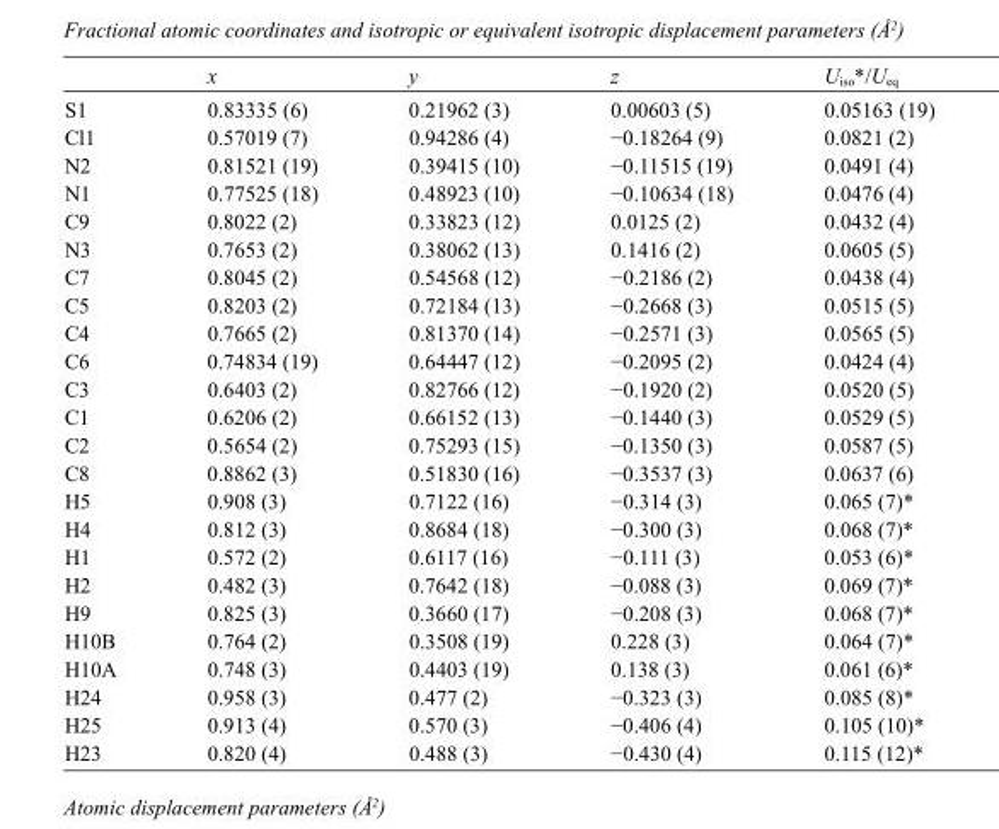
<table><thead><tr><td></td><td>x</td><td>y</td><td>z</td><td>U<sub>iso</sub>*/U<sub>eq</sub></td></tr></thead><tbody><tr><td>S1</td><td>0.83335 (6)</td><td>0.21962 (3)</td><td>0.00603 (5)</td><td>0.05163 (19)</td></tr><tr><td>Cl1</td><td>0.57019 (7)</td><td>0.94286 (4)</td><td>−0.18264 (9)</td><td>0.0821 (2)</td></tr><tr><td>N2</td><td>0.81521 (19)</td><td>0.39415 (10)</td><td>−0.11515 (19)</td><td>0.0491 (4)</td></tr><tr><td>N1</td><td>0.77525 (18)</td><td>0.48923 (10)</td><td>−0.10634 (18)</td><td>0.0476 (4)</td></tr><tr><td>C9</td><td>0.8022 (2)</td><td>0.33823 (12)</td><td>0.0125 (2)</td><td>0.0432 (4)</td></tr><tr><td>N3</td><td>0.7653 (2)</td><td>0.38062 (13)</td><td>0.1416 (2)</td><td>0.0605 (5)</td></tr><tr><td>C7</td><td>0.8045 (2)</td><td>0.54568 (12)</td><td>−0.2186 (2)</td><td>0.0438 (4)</td></tr><tr><td>C5</td><td>0.8203 (2)</td><td>0.72184 (13)</td><td>−0.2668 (3)</td><td>0.0515 (5)</td></tr><tr><td>C4</td><td>0.7665 (2)</td><td>0.81370 (14)</td><td>−0.2571 (3)</td><td>0.0565 (5)</td></tr><tr><td>C6</td><td>0.74834 (19)</td><td>0.64447 (12)</td><td>−0.2095 (2)</td><td>0.0424 (4)</td></tr><tr><td>C3</td><td>0.6403 (2)</td><td>0.82766 (12)</td><td>−0.1920 (2)</td><td>0.0520 (5)</td></tr><tr><td>C1</td><td>0.6206 (2)</td><td>0.66152 (13)</td><td>−0.1440 (3)</td><td>0.0529 (5)</td></tr><tr><td>C2</td><td>0.5654 (2)</td><td>0.75293 (15)</td><td>−0.1350 (3)</td><td>0.0587 (5)</td></tr><tr><td>C8</td><td>0.8862 (3)</td><td>0.51830 (16)</td><td>−0.3537 (3)</td><td>0.0637 (6)</td></tr><tr><td>H5</td><td>0.908 (3)</td><td>0.7122 (16)</td><td>−0.314 (3)</td><td>0.065 (7)*</td></tr><tr><td>H4</td><td>0.812 (3)</td><td>0.8684 (18)</td><td>−0.300 (3)</td><td>0.068 (7)*</td></tr><tr><td>H1</td><td>0.572 (2)</td><td>0.6117 (16)</td><td>−0.111 (3)</td><td>0.053 (6)*</td></tr><tr><td>H2</td><td>0.482 (3)</td><td>0.7642 (18)</td><td>−0.088 (3)</td><td>0.069 (7)*</td></tr><tr><td>H9</td><td>0.825 (3)</td><td>0.3660 (17)</td><td>−0.208 (3)</td><td>0.068 (7)*</td></tr><tr><td>H10B</td><td>0.764 (2)</td><td>0.3508 (19)</td><td>0.228 (3)</td><td>0.064 (7)*</td></tr><tr><td>H10A</td><td>0.748 (3)</td><td>0.4403 (19)</td><td>0.138 (3)</td><td>0.061 (6)*</td></tr><tr><td>H24</td><td>0.958 (3)</td><td>0.477 (2)</td><td>−0.323 (3)</td><td>0.085 (8)*</td></tr><tr><td>H25</td><td>0.913 (4)</td><td>0.570 (3)</td><td>−0.406 (4)</td><td>0.105 (10)*</td></tr><tr><td>H23</td><td>0.820 (4)</td><td>0.488 (3)</td><td>−0.430 (4)</td><td>0.115 (12)*</td></tr></tbody></table>